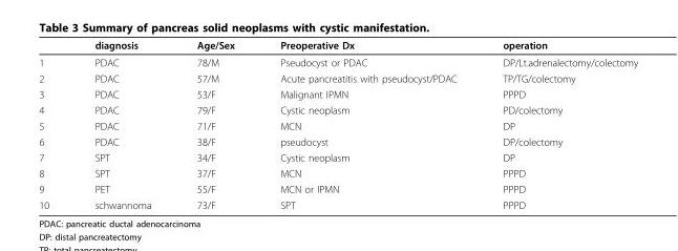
<table><thead><tr><td></td><td>diagnosis</td><td>Age/Sex</td><td>Preoperative Dx</td><td>operation</td></tr></thead><tbody><tr><td>1</td><td>PDAC</td><td>78/M</td><td>Pseudocyst or PDAC</td><td>DP/Lt.adrenalectomy/colectomy</td></tr><tr><td>2</td><td>PDAC</td><td>57/M</td><td>Acute pancreatitis with pseudocyst/PDAC</td><td>TP/TG/colectomy</td></tr><tr><td>3</td><td>PDAC</td><td>53/F</td><td>Malignant IPMN</td><td>PPPD</td></tr><tr><td>4</td><td>PDAC</td><td>79/F</td><td>Cystic neoplasm</td><td>PD/colectomy</td></tr><tr><td>5</td><td>PDAC</td><td>71/F</td><td>MCN</td><td>DP</td></tr><tr><td>6</td><td>PDAC</td><td>38/F</td><td>pseudocyst</td><td>DP/colectomy</td></tr><tr><td>7</td><td>SPT</td><td>34/F</td><td>Cystic neoplasm</td><td>DP</td></tr><tr><td>8</td><td>SPT</td><td>37/F</td><td>MCN</td><td>PPPD</td></tr><tr><td>9</td><td>PET</td><td>55/F</td><td>MCN or IPMN</td><td>PPPD</td></tr><tr><td>10</td><td>schwannoma</td><td>73/F</td><td>SPT</td><td>PPPD</td></tr></tbody></table>